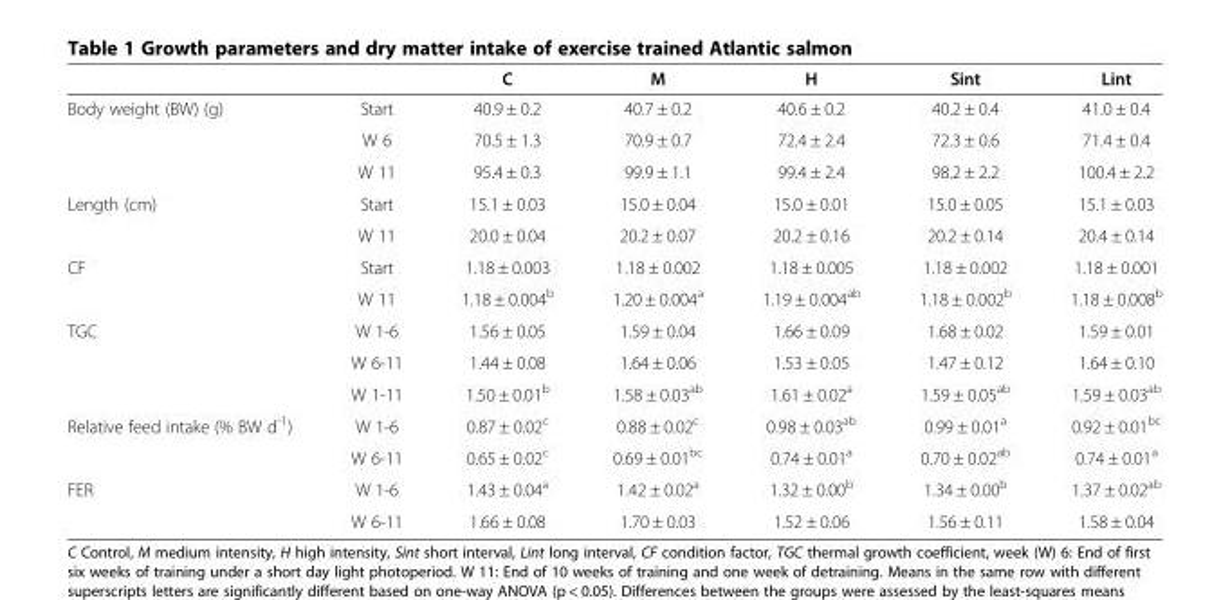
<table><thead><tr><td></td><td></td><td>C</td><td>M</td><td>H</td><td>Sint</td><td>Lint</td></tr></thead><tbody><tr><td rowspan="3">Body weight (BW) (g)</td><td>Start</td><td>40.9 ± 0.2</td><td>40.7 ± 0.2</td><td>40.6 ± 0.2</td><td>40.2 ± 0.4</td><td>41.0 ± 0.4</td></tr><tr><td>W 6</td><td>70.5 ± 1.3</td><td>70.9 ± 0.7</td><td>72.4 ± 2.4</td><td>72.3 ± 0.6</td><td>71.4 ± 0.4</td></tr><tr><td>W 11</td><td>95.4 ± 0.3</td><td>99.9 ± 1.1</td><td>99.4 ± 2.4</td><td>98.2 ± 2.2</td><td>100.4 ± 2.2</td></tr><tr><td rowspan="2">Length (cm)</td><td>Start</td><td>15.1 ± 0.03</td><td>15.0 ± 0.04</td><td>15.0 ± 0.01</td><td>15.0 ± 0.05</td><td>15.1 ± 0.03</td></tr><tr><td>W 11</td><td>20.0 ± 0.04</td><td>20.2 ± 0.07</td><td>20.2 ± 0.16</td><td>20.2 ± 0.14</td><td>20.4 ± 0.14</td></tr><tr><td rowspan="2">CF</td><td>Start</td><td>1.18 ± 0.003</td><td>1.18 ± 0.002</td><td>1.18 ± 0.005</td><td>1.18 ± 0.002</td><td>1.18 ± 0.001</td></tr><tr><td>W 11</td><td>1.18 ± 0.004<sup>b</sup></td><td>1.20 ± 0.004<sup>a</sup></td><td>1.19 ± 0.004<sup>ab</sup></td><td>1.18 ± 0.002<sup>b</sup></td><td>1.18 ± 0.008<sup>b</sup></td></tr><tr><td rowspan="3">TGC</td><td>W 1-6</td><td>1.56 ± 0.05</td><td>1.59 ± 0.04</td><td>1.66 ± 0.09</td><td>1.68 ± 0.02</td><td>1.59 ± 0.01</td></tr><tr><td>W 6-11</td><td>1.44 ± 0.08</td><td>1.64 ± 0.06</td><td>1.53 ± 0.05</td><td>1.47 ± 0.12</td><td>1.64 ± 0.10</td></tr><tr><td>W 1-11</td><td>1.50 ± 0.01<sup>b</sup></td><td>1.58 ± 0.03<sup>ab</sup></td><td>1.61 ± 0.02<sup>a</sup></td><td>1.59 ± 0.05<sup>ab</sup></td><td>1.59 ± 0.03<sup>ab</sup></td></tr><tr><td rowspan="2">Relative feed intake (% BW d<sup>-1</sup>)</td><td>W 1-6</td><td>0.87 ± 0.02<sup>c</sup></td><td>0.88 ± 0.02<sup>c</sup></td><td>0.98 ± 0.03<sup>ab</sup></td><td>0.99 ± 0.01<sup>a</sup></td><td>0.92 ± 0.01<sup>bc</sup></td></tr><tr><td>W 6-11</td><td>0.65 ± 0.02<sup>c</sup></td><td>0.69 ± 0.01<sup>bc</sup></td><td>0.74 ± 0.01<sup>a</sup></td><td>0.70 ± 0.02<sup>ab</sup></td><td>0.74 ± 0.01<sup>a</sup></td></tr><tr><td rowspan="2">FER</td><td>W 1-6</td><td>1.43 ± 0.04<sup>a</sup></td><td>1.42 ± 0.02<sup>a</sup></td><td>1.32 ± 0.00<sup>b</sup></td><td>1.34 ± 0.00<sup>b</sup></td><td>1.37 ± 0.02<sup>ab</sup></td></tr><tr><td>W 6-11</td><td>1.66 ± 0.08</td><td>1.70 ± 0.03</td><td>1.52 ± 0.06</td><td>1.56 ± 0.11</td><td>1.58 ± 0.04</td></tr></tbody></table>